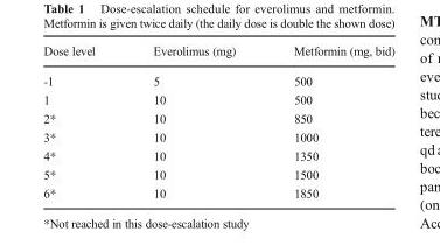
<table><thead><tr><td>Dose level</td><td>Everolimus (mg)</td><td>Metformin (mg, bid)</td></tr></thead><tbody><tr><td>-1</td><td>5</td><td>500</td></tr><tr><td>1</td><td>10</td><td>500</td></tr><tr><td>2*</td><td>10</td><td>850</td></tr><tr><td>3*</td><td>10</td><td>1000</td></tr><tr><td>4*</td><td>10</td><td>1350</td></tr><tr><td>5*</td><td>10</td><td>1500</td></tr><tr><td>6*</td><td>10</td><td>1850</td></tr></tbody></table>